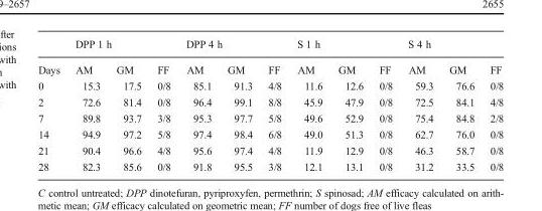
<table><thead><tr><td rowspan="2">Days</td><td colspan="3">DPP 1 h</td><td colspan="3">DPP 4 h</td><td colspan="3">S 1 h</td><td colspan="3">S 4 h</td></tr><tr><td>AM</td><td>GM</td><td>FF</td><td>AM</td><td>GM</td><td>FF</td><td>AM</td><td>GM</td><td>FF</td><td>AM</td><td>GM</td><td>FF</td></tr></thead><tbody><tr><td>0</td><td>15.3</td><td>17.5</td><td>0/8</td><td>85.1</td><td>91.3</td><td>4/8</td><td>11.6</td><td>12.6</td><td>0/8</td><td>59.3</td><td>76.6</td><td>0/8</td></tr><tr><td>2</td><td>72.6</td><td>81.4</td><td>0/8</td><td>96.4</td><td>99.1</td><td>8/8</td><td>45.9</td><td>47.9</td><td>0/8</td><td>72.5</td><td>84.1</td><td>4/8</td></tr><tr><td>7</td><td>89.8</td><td>93.7</td><td>3/8</td><td>95.3</td><td>97.7</td><td>5/8</td><td>49.6</td><td>52.9</td><td>0/8</td><td>75.4</td><td>84.8</td><td>2/8</td></tr><tr><td>14</td><td>94.9</td><td>97.2</td><td>5/8</td><td>97.4</td><td>98.4</td><td>6/8</td><td>49.0</td><td>51.3</td><td>0/8</td><td>62.7</td><td>76.0</td><td>0/8</td></tr><tr><td>21</td><td>90.4</td><td>96.6</td><td>4/8</td><td>95.6</td><td>97.4</td><td>4/8</td><td>11.9</td><td>12.9</td><td>0/8</td><td>46.3</td><td>58.7</td><td>0/8</td></tr><tr><td>28</td><td>82.3</td><td>85.6</td><td>0/8</td><td>91.8</td><td>95.5</td><td>3/8</td><td>12.1</td><td>13.1</td><td>0/8</td><td>31.2</td><td>33.5</td><td>0/8</td></tr></tbody></table>